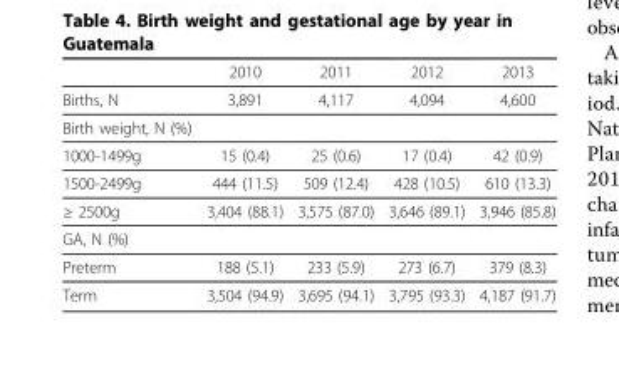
<table><thead><tr><td></td><td>2010</td><td>2011</td><td>2012</td><td>2013</td></tr></thead><tbody><tr><td>Births, N</td><td>3,891</td><td>4,117</td><td>4,094</td><td>4,600</td></tr><tr><td colspan="5">Birth weight, N (%)</td></tr><tr><td>1000-1499g</td><td>15 (0.4)</td><td>25 (0.6)</td><td>17 (0.4)</td><td>42 (0.9)</td></tr><tr><td>1500-2499g</td><td>444 (11.5)</td><td>509 (12.4)</td><td>428 (10.5)</td><td>610 (13.3)</td></tr><tr><td>≥ 2500g</td><td>3,404 (88.1)</td><td>3,575 (87.0)</td><td>3,646 (89.1)</td><td>3,946 (85.8)</td></tr><tr><td colspan="5">GA, N (%)</td></tr><tr><td>Preterm</td><td>188 (5.1)</td><td>233 (5.9)</td><td>273 (6.7)</td><td>379 (8.3)</td></tr><tr><td>Term</td><td>3,504 (94.9)</td><td>3,695 (94.1)</td><td>3,795 (93.3)</td><td>4,187 (91.7)</td></tr></tbody></table>